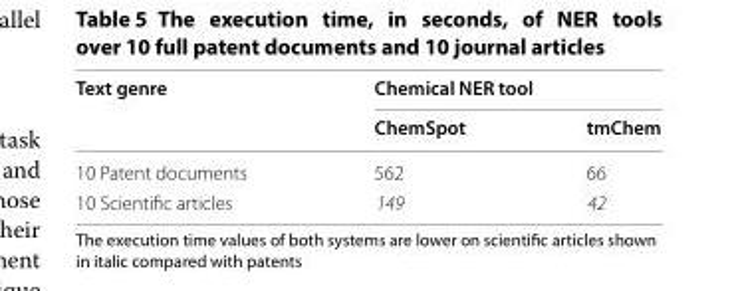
<table><thead><tr><td rowspan="2">Text genre</td><td colspan="2">Chemical NER tool</td></tr><tr><td>ChemSpot</td><td>tmChem</td></tr></thead><tbody><tr><td>10 Patent documents</td><td>562</td><td>66</td></tr><tr><td>10 Scientific articles</td><td>149</td><td>42</td></tr></tbody></table>